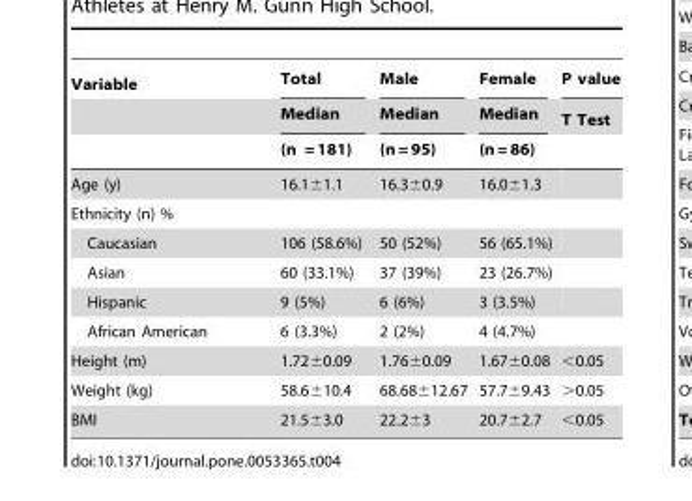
<table><thead><tr><td rowspan="3">Variable</td><td rowspan="3">Total Median (n = 181)</td><td rowspan="3">Male Median (n = 95)</td><td rowspan="3">Female Median (n = 86)</td><td rowspan="3">P value T Test</td></tr><tr></tr><tr></tr></thead><tbody><tr><td>Age (y)</td><td>16.1±1.1</td><td>16.3±0.9</td><td>16.0±1.3</td><td></td></tr><tr><td colspan="5">Ethnicity (n) %</td></tr><tr><td>Caucasian</td><td>106 (58.6%)</td><td>50 (52%)</td><td>56 (65.1%)</td><td></td></tr><tr><td>Asian</td><td>60 (33.1%)</td><td>37 (39%)</td><td>23 (26.7%)</td><td></td></tr><tr><td>Hispanic</td><td>9 (5%)</td><td>6 (6%)</td><td>3 (3.5%)</td><td></td></tr><tr><td>African American</td><td>6 (3.3%)</td><td>2 (2%)</td><td>4 (4.7%)</td><td></td></tr><tr><td>Height (m)</td><td>1.72±0.09</td><td>1.76±0.09</td><td>1.67±0.08</td><td>&lt;0.05</td></tr><tr><td>Weight (kg)</td><td>58.6±10.4</td><td>68.68±12.67</td><td>57.7±9.43</td><td>&gt;0.05</td></tr><tr><td>BMI</td><td>21.5±3.0</td><td>22.2±3</td><td>20.7±2.7</td><td>&lt;0.05</td></tr></tbody></table>